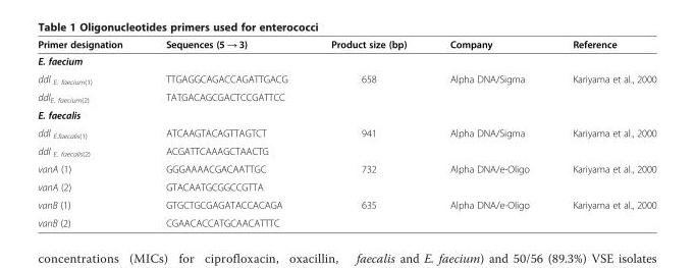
<table><thead><tr><td>Primer designation</td><td>Sequences (5 → 3)</td><td>Product size (bp)</td><td>Company</td><td>Reference</td></tr></thead><tbody><tr><td colspan="5">E. faecium</td></tr><tr><td>ddl <sub>E. faecium(1)</sub></td><td>TTGAGGCAGACCAGATTGACG</td><td>658</td><td>Alpha DNA/Sigma</td><td>Kariyama et al., 2000</td></tr><tr><td>ddl<sub>E. faecium(2)</sub></td><td>TATGACAGCGACTCCGATTCC</td><td></td><td></td><td></td></tr><tr><td colspan="5">E. faecalis</td></tr><tr><td>ddl <sub>E.faecalis(1)</sub></td><td>ATCAAGTACAGTTAGTCT</td><td>941</td><td>Alpha DNA/Sigma</td><td>Kariyama et al., 2000</td></tr><tr><td>ddl <sub>E. faecalis(2)</sub></td><td>ACGATTCAAAGCTAACTG</td><td></td><td></td><td></td></tr><tr><td>vanA (1)</td><td>GGGAAAACGACAATTGC</td><td>732</td><td>Alpha DNA/e-Oligo</td><td>Kariyama et al., 2000</td></tr><tr><td>vanA (2)</td><td>GTACAATGCGGCCGTTA</td><td></td><td></td><td></td></tr><tr><td>vanB (1)</td><td>GTGCTGCGAGATACCACAGA</td><td>635</td><td>Alpha DNA/e-Oligo</td><td>Kariyama et al., 2000</td></tr><tr><td>vanB (2)</td><td>CGAACACCATGCAACATTTC</td><td></td><td></td><td></td></tr></tbody></table>